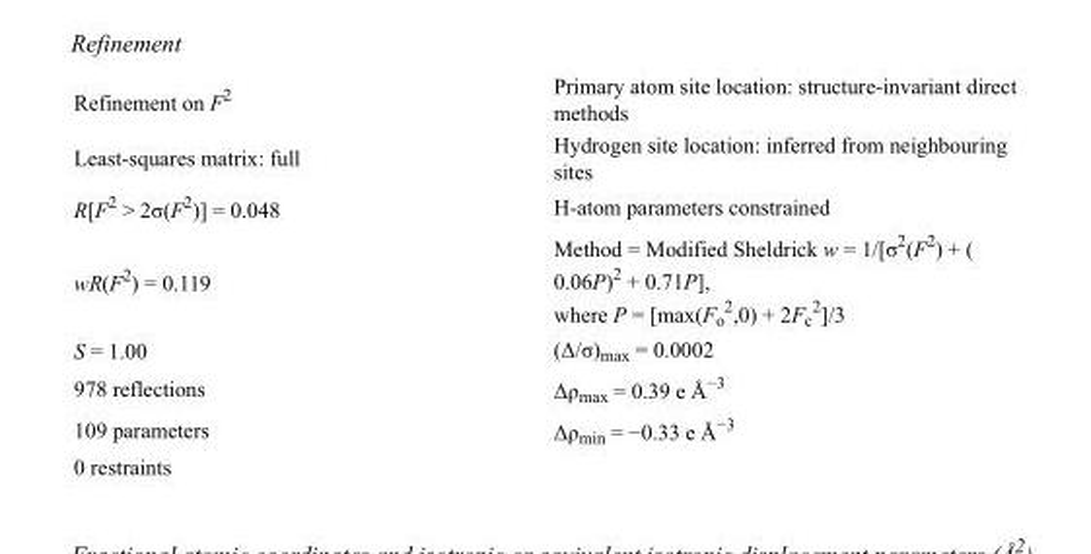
<table><tbody><tr><td>Refinement on F<sup>2</sup></td><td>Primary atom site location: structure-invariant direct methods</td></tr><tr><td>Least-squares matrix: full</td><td>Hydrogen site location: inferred from neighbouring sites</td></tr><tr><td>R[F<sup>2</sup> &gt; 2σ(F<sup>2</sup>)] = 0.048</td><td>H-atom parameters constrained</td></tr><tr><td>wR(F<sup>2</sup>) = 0.119</td><td>Method = Modified Sheldrick w = 1/[σ<sup>2</sup>(F<sup>2</sup>) + ( 0.06P)<sup>2</sup> + 0.71P], where P = [max(F<sub>o</sub> <sup>2</sup>,0) + 2F<sub>c</sub> <sup>2</sup>]/3</td></tr><tr><td>S = 1.00</td><td>(Δ/σ)<sub>max</sub> = 0.0002</td></tr><tr><td>978 reflections</td><td>Δρ<sub>max</sub> = 0.39 e Å<sup>−3</sup></td></tr><tr><td>109 parameters</td><td>Δρ<sub>min</sub> = −0.33 e Å<sup>−3</sup></td></tr><tr><td>0 restraints</td><td></td></tr></tbody></table>